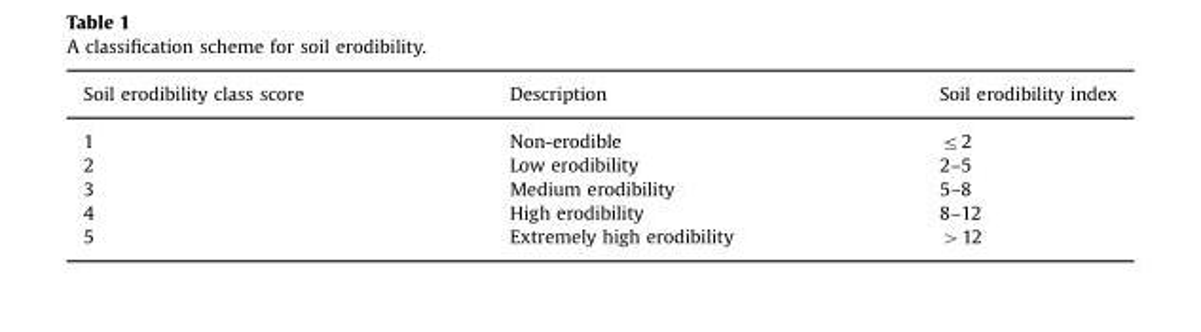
<table><thead><tr><td>Soil erodibility class score</td><td>Description</td><td>Soil erodibility index</td></tr></thead><tbody><tr><td>1</td><td>Non-erodible</td><td>≤2</td></tr><tr><td>2</td><td>Low erodibility</td><td>2–5</td></tr><tr><td>3</td><td>Medium erodibility</td><td>5–8</td></tr><tr><td>4</td><td>High erodibility</td><td>8–12</td></tr><tr><td>5</td><td>Extremely high erodibility</td><td>&gt;12</td></tr></tbody></table>